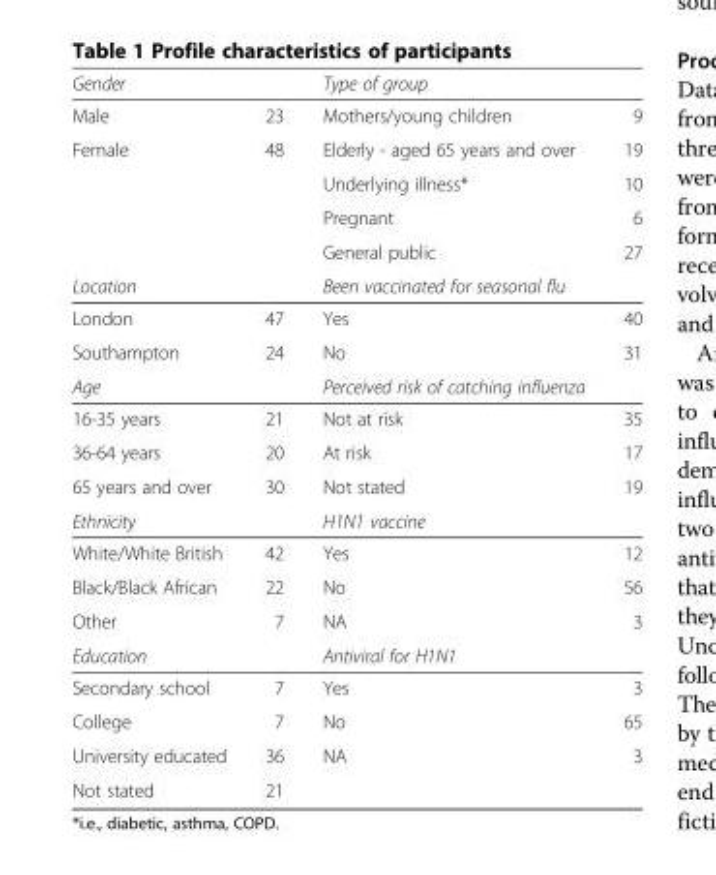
<table><tbody><tr><td>Gender</td><td></td><td>Type of group</td><td></td></tr><tr><td>Male</td><td>23</td><td>Mothers/young children</td><td>9</td></tr><tr><td rowspan="4">Female</td><td>48</td><td>Elderly - aged 65 years and over</td><td>19</td></tr><tr><td></td><td>Underlying illness*</td><td>10</td></tr><tr><td></td><td>Pregnant</td><td>6</td></tr><tr><td></td><td>General public</td><td>27</td></tr><tr><td>Location</td><td></td><td>Been vaccinated for seasonal flu</td><td></td></tr><tr><td>London</td><td>47</td><td>Yes</td><td>40</td></tr><tr><td>Southampton</td><td>24</td><td>No</td><td>31</td></tr><tr><td>Age</td><td></td><td>Perceived risk of catching influenza</td><td></td></tr><tr><td>16-35 years</td><td>21</td><td>Not at risk</td><td>35</td></tr><tr><td>36-64 years</td><td>20</td><td>At risk</td><td>17</td></tr><tr><td>65 years and over</td><td>30</td><td>Not stated</td><td>19</td></tr><tr><td>Ethnicity</td><td></td><td>H1N1 vaccine</td><td></td></tr><tr><td>White/White British</td><td>42</td><td>Yes</td><td>12</td></tr><tr><td>Black/Black African</td><td>22</td><td>No</td><td>56</td></tr><tr><td>Other</td><td>7</td><td>NA</td><td>3</td></tr><tr><td>Education</td><td></td><td>Antiviral for H1N1</td><td></td></tr><tr><td>Secondary school</td><td>7</td><td>Yes</td><td>3</td></tr><tr><td>College</td><td>7</td><td>No</td><td>65</td></tr><tr><td>University educated</td><td>36</td><td>NA</td><td>3</td></tr><tr><td>Not stated</td><td>21</td><td></td><td></td></tr></tbody></table>